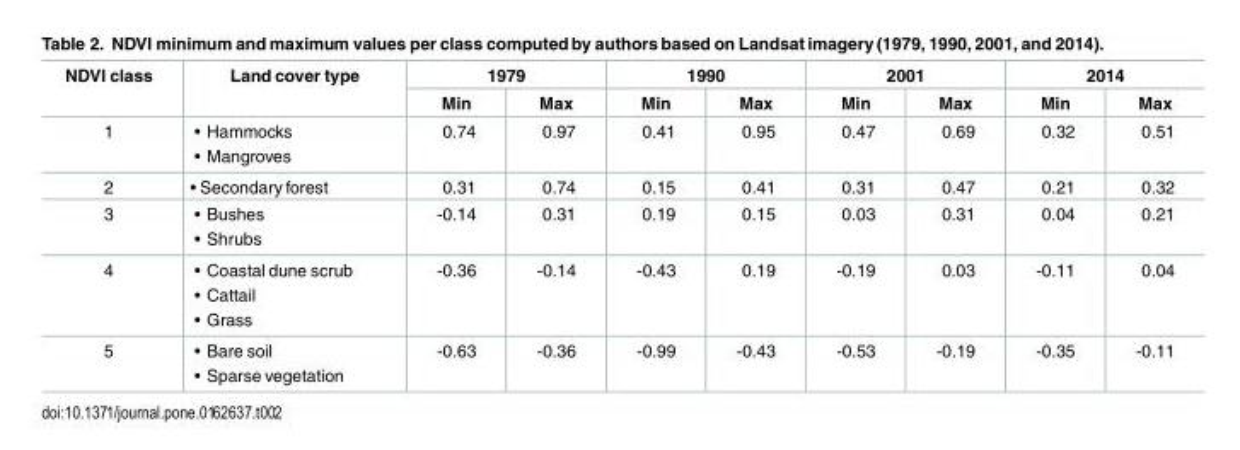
<table><thead><tr><td rowspan="2">NDVI class</td><td rowspan="2">Land cover type</td><td colspan="2">1979</td><td colspan="2">1990</td><td colspan="2">2001</td><td colspan="2">2014</td></tr><tr><td>Min</td><td>Max</td><td>Min</td><td>Max</td><td>Min</td><td>Max</td><td>Min</td><td>Max</td></tr></thead><tbody><tr><td>1</td><td>• Hammocks • Mangroves</td><td>0.74</td><td>0.97</td><td>0.41</td><td>0.95</td><td>0.47</td><td>0.69</td><td>0.32</td><td>0.51</td></tr><tr><td>2</td><td>• Secondary forest</td><td>0.31</td><td>0.74</td><td>0.15</td><td>0.41</td><td>0.31</td><td>0.47</td><td>0.21</td><td>0.32</td></tr><tr><td>3</td><td>• Bushes • Shrubs</td><td>-0.14</td><td>0.31</td><td>0.19</td><td>0.15</td><td>0.03</td><td>0.31</td><td>0.04</td><td>0.21</td></tr><tr><td>4</td><td>• Coastal dune scrub • Cattail • Grass</td><td>-0.36</td><td>-0.14</td><td>-0.43</td><td>0.19</td><td>-0.19</td><td>0.03</td><td>-0.11</td><td>0.04</td></tr><tr><td>5</td><td>• Bare soil • Sparse vegetation</td><td>-0.63</td><td>-0.36</td><td>-0.99</td><td>-0.43</td><td>-0.53</td><td>-0.19</td><td>-0.35</td><td>-0.11</td></tr></tbody></table>